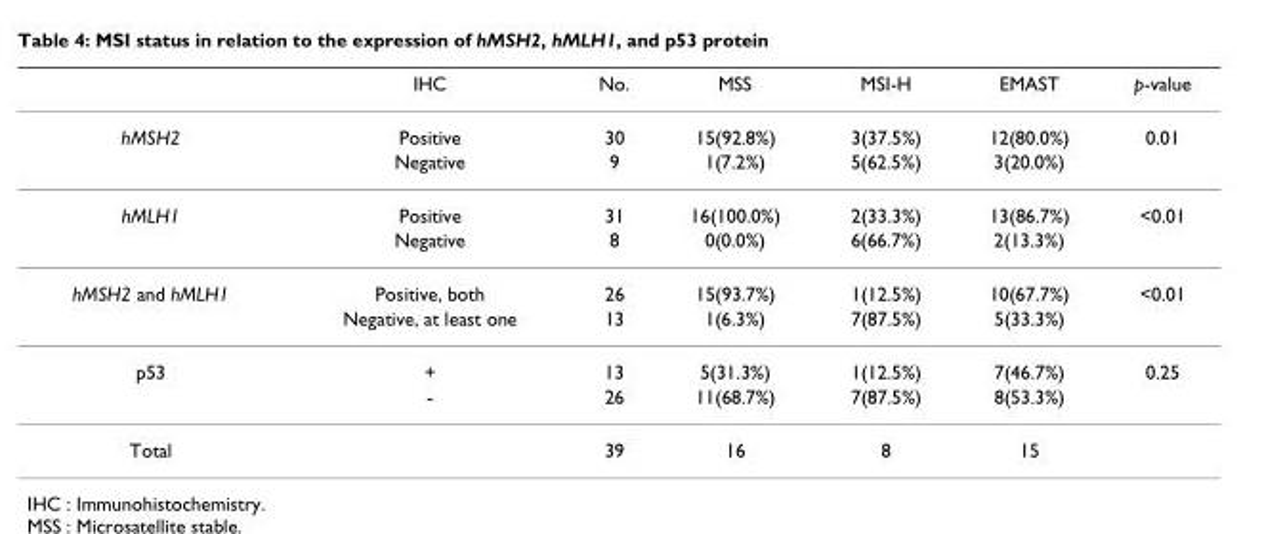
<table><thead><tr><td></td><td>IHC</td><td>No.</td><td>MSS</td><td>MSI-H</td><td>EMAST</td><td>p-value</td></tr></thead><tbody><tr><td rowspan="2">hMSH2</td><td>Positive</td><td>30</td><td>15(92.8%)</td><td>3(37.5%)</td><td>12(80.0%)</td><td>0.01</td></tr><tr><td>Negative</td><td>9</td><td>1(7.2%)</td><td>5(62.5%)</td><td>3(20.0%)</td><td></td></tr><tr><td rowspan="2">hMLH1</td><td>Positive</td><td>31</td><td>16(100.0%)</td><td>2(33.3%)</td><td>13(86.7%)</td><td>&lt;0.01</td></tr><tr><td>Negative</td><td>8</td><td>0(0.0%)</td><td>6(66.7%)</td><td>2(13.3%)</td><td></td></tr><tr><td rowspan="2">hMSH2 and hMLH1</td><td>Positive, both</td><td>26</td><td>15(93.7%)</td><td>1(12.5%)</td><td>10(67.7%)</td><td>&lt;0.01</td></tr><tr><td>Negative, at least one</td><td>13</td><td>1(6.3%)</td><td>7(87.5%)</td><td>5(33.3%)</td><td></td></tr><tr><td rowspan="2">p53</td><td>+</td><td>13</td><td>5(31.3%)</td><td>1(12.5%)</td><td>7(46.7%)</td><td>0.25</td></tr><tr><td>-</td><td>26</td><td>11(68.7%)</td><td>7(87.5%)</td><td>8(53.3%)</td><td></td></tr><tr><td>Total</td><td></td><td>39</td><td>16</td><td>8</td><td>15</td><td></td></tr></tbody></table>